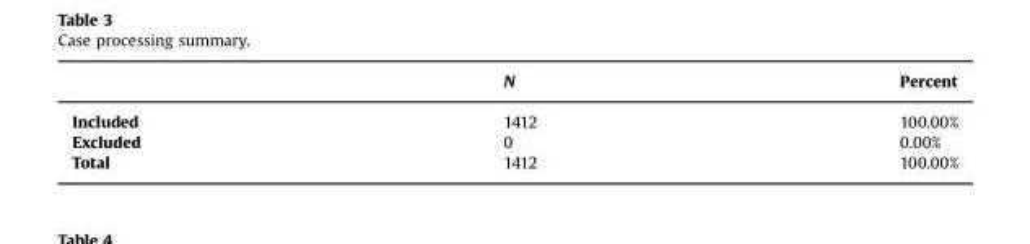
<table><thead><tr><td></td><td>N</td><td>Percent</td></tr></thead><tbody><tr><td>Included</td><td>1412</td><td>100.00%</td></tr><tr><td>Excluded</td><td>0</td><td>0.00%</td></tr><tr><td>Total</td><td>1412</td><td>100.00%</td></tr></tbody></table>